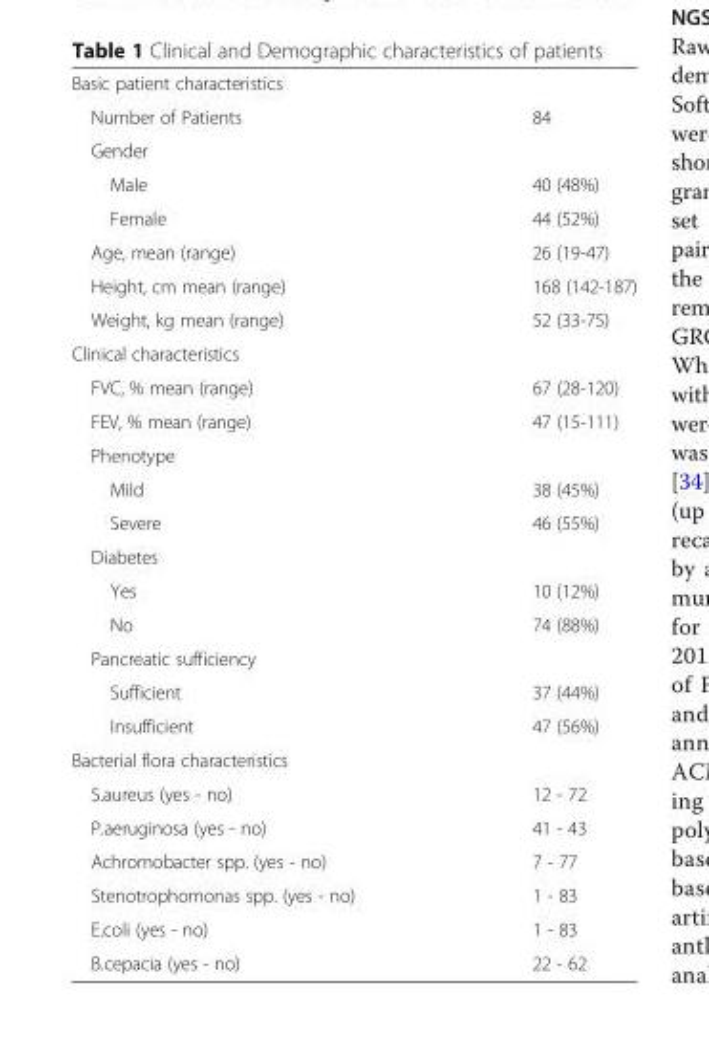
<table><tbody><tr><td colspan="2">Basic patient characteristics</td></tr><tr><td>Number of Patients</td><td>84</td></tr><tr><td colspan="2">Gender</td></tr><tr><td>Male</td><td>40 (48%)</td></tr><tr><td>Female</td><td>44 (52%)</td></tr><tr><td>Age, mean (range)</td><td>26 (19-47)</td></tr><tr><td>Height, cm mean (range)</td><td>168 (142-187)</td></tr><tr><td>Weight, kg mean (range)</td><td>52 (33-75)</td></tr><tr><td colspan="2">Clinical characteristics</td></tr><tr><td>FVC, % mean (range)</td><td>67 (28-120)</td></tr><tr><td>FEV, % mean (range)</td><td>47 (15-111)</td></tr><tr><td colspan="2">Phenotype</td></tr><tr><td>Mild</td><td>38 (45%)</td></tr><tr><td>Severe</td><td>46 (55%)</td></tr><tr><td colspan="2">Diabetes</td></tr><tr><td>Yes</td><td>10 (12%)</td></tr><tr><td>No</td><td>74 (88%)</td></tr><tr><td colspan="2">Pancreatic sufficiency</td></tr><tr><td>Sufficient</td><td>37 (44%)</td></tr><tr><td>Insufficient</td><td>47 (56%)</td></tr><tr><td colspan="2">Bacterial flora characteristics</td></tr><tr><td>S.aureus (yes - no)</td><td>12 - 72</td></tr><tr><td>P.aeruginosa (yes - no)</td><td>41 - 43</td></tr><tr><td>Achromobacter spp. (yes - no)</td><td>7 - 77</td></tr><tr><td>Stenotrophomonas spp. (yes - no)</td><td>1 - 83</td></tr><tr><td>E.coli (yes - no)</td><td>1 - 83</td></tr><tr><td>B.cepacia (yes - no)</td><td>22 - 62</td></tr></tbody></table>